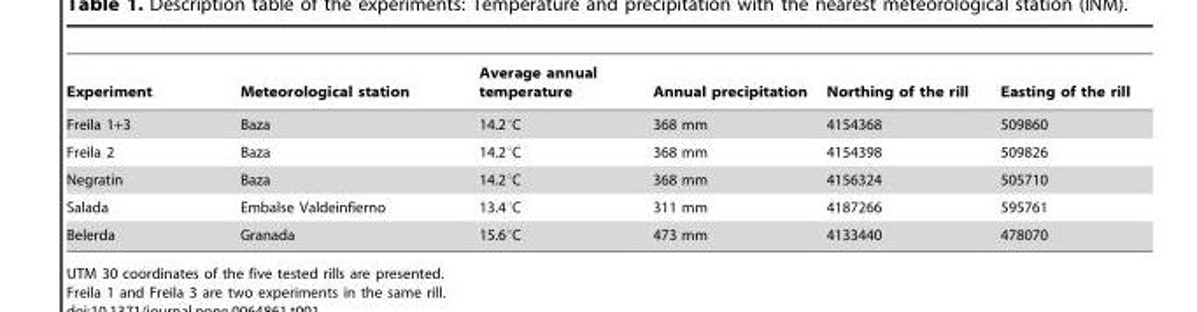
<table><thead><tr><td>Experiment</td><td>Meteorological station</td><td>Average annual temperature</td><td>Annual precipitation</td><td>Northing of the rill</td><td>Easting of the rill</td></tr></thead><tbody><tr><td>Freila 1+3</td><td>Baza</td><td>14.2°C</td><td>368 mm</td><td>4154368</td><td>509860</td></tr><tr><td>Freila 2</td><td>Baza</td><td>14.2°C</td><td>368 mm</td><td>4154398</td><td>509826</td></tr><tr><td>Negratin</td><td>Baza</td><td>14.2°C</td><td>368 mm</td><td>4156324</td><td>505710</td></tr><tr><td>Salada</td><td>Embalse Valdeinfierno</td><td>13.4°C</td><td>311 mm</td><td>4187266</td><td>595761</td></tr><tr><td>Belerda</td><td>Granada</td><td>15.6°C</td><td>473 mm</td><td>4133440</td><td>478070</td></tr></tbody></table>